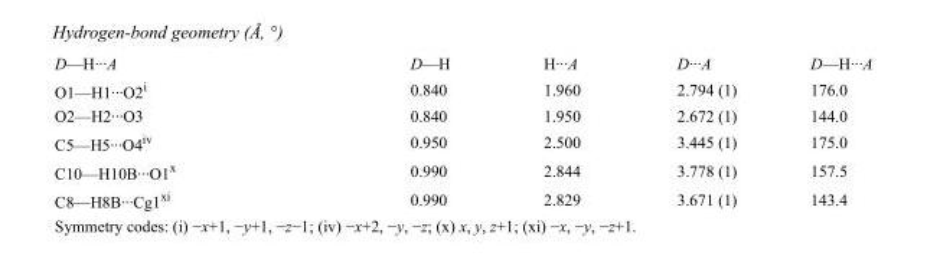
<table><tbody><tr><td>D—H···A</td><td>D—H</td><td>H···A</td><td>D···A</td><td>D—H···A</td></tr><tr><td>O1—H1···O2<sup>i</sup></td><td>0.840</td><td>1.960</td><td>2.794 (1)</td><td>176.0</td></tr><tr><td>O2—H2···O3</td><td>0.840</td><td>1.950</td><td>2.672 (1)</td><td>144.0</td></tr><tr><td>C5—H5···O4<sup>iv</sup></td><td>0.950</td><td>2.500</td><td>3.445 (1)</td><td>175.0</td></tr><tr><td>C10—H10B···O1<sup>x</sup></td><td>0.990</td><td>2.844</td><td>3.778 (1)</td><td>157.5</td></tr><tr><td>C8—H8B···Cg1<sup>xi</sup></td><td>0.990</td><td>2.829</td><td>3.671 (1)</td><td>143.4</td></tr></tbody></table>